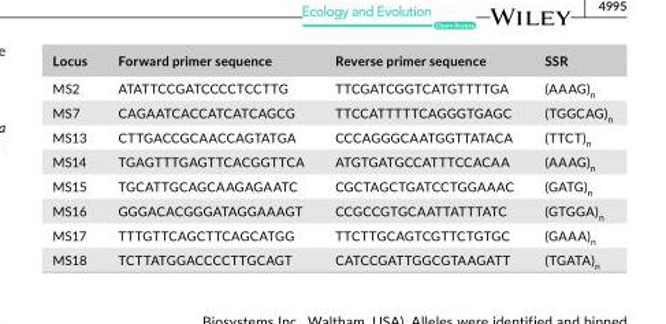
<table><thead><tr><td>Locus</td><td>Forward primer sequence</td><td>Reverse primer sequence</td><td>SSR</td></tr></thead><tbody><tr><td>MS2</td><td>ATATTCCGATCCCCTCCTTG</td><td>TTCGATCGGTCATGTTTTGA</td><td>(AAAG)<sub>n</sub></td></tr><tr><td>MS7</td><td>CAGAATCACCATCATCAGCG</td><td>TTCCATTTTTCAGGGTGAGC</td><td>(TGGCAG)<sub>n</sub></td></tr><tr><td>MS13</td><td>CTTGACCGCAACCAGTATGA</td><td>CCCAGGGCAATGGTTATACA</td><td>(TTCT)<sub>n</sub></td></tr><tr><td>MS14</td><td>TGAGTTTGAGTTCACGGTTCA</td><td>ATGTGATGCCATTTCCACAA</td><td>(AAAG)<sub>n</sub></td></tr><tr><td>MS15</td><td>TGCATTGCAGCAAGAGAATC</td><td>CGCTAGCTGATCCTGGAAAC</td><td>(GATG)<sub>n</sub></td></tr><tr><td>MS16</td><td>GGGACACGGGATAGGAAAGT</td><td>CCGCCGTGCAATTATTTATC</td><td>(GTGGA)<sub>n</sub></td></tr><tr><td>MS17</td><td>TTTGTTCAGCTTCAGCATGG</td><td>TTCTTGCAGTCGTTCTGTGC</td><td>(GAAA)<sub>n</sub></td></tr><tr><td>MS18</td><td>TCTTATGGACCCCTTGCAGT</td><td>CATCCGATTGGCGTAAGATT</td><td>(TGATA)<sub>n</sub></td></tr></tbody></table>